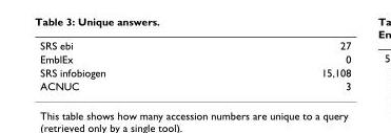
<table><tbody><tr><td>SRS ebi</td><td>27</td></tr><tr><td>EmblEx</td><td>0</td></tr><tr><td>SRS infobiogen</td><td>15,108</td></tr><tr><td>ACNUC</td><td>3</td></tr></tbody></table>